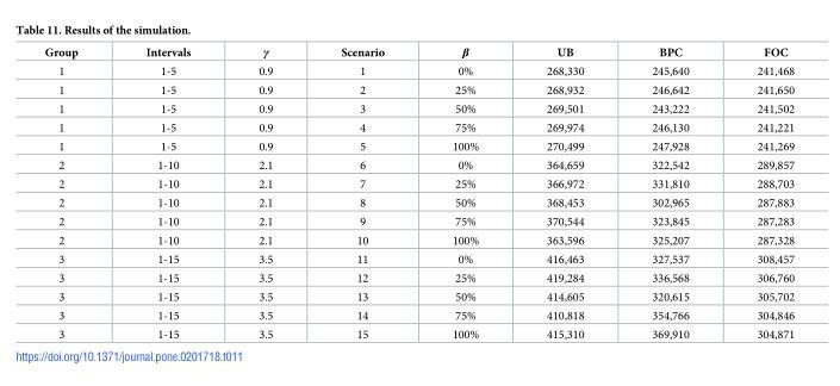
<table><thead><tr><td>Group</td><td>Intervals</td><td>γ</td><td>Scenario</td><td>β</td><td>UB</td><td>BPC</td><td>FOC</td></tr></thead><tbody><tr><td>1</td><td>1-5</td><td>0.9</td><td>1</td><td>0%</td><td>268,330</td><td>245,640</td><td>241,468</td></tr><tr><td>1</td><td>1-5</td><td>0.9</td><td>2</td><td>25%</td><td>268,932</td><td>246,642</td><td>241,650</td></tr><tr><td>1</td><td>1-5</td><td>0.9</td><td>3</td><td>50%</td><td>269,501</td><td>243,222</td><td>241,502</td></tr><tr><td>1</td><td>1-5</td><td>0.9</td><td>4</td><td>75%</td><td>269,974</td><td>246,130</td><td>241,221</td></tr><tr><td>1</td><td>1-5</td><td>0.9</td><td>5</td><td>100%</td><td>270,499</td><td>247,928</td><td>241,269</td></tr><tr><td>2</td><td>1-10</td><td>2.1</td><td>6</td><td>0%</td><td>364,659</td><td>322,542</td><td>289,857</td></tr><tr><td>2</td><td>1-10</td><td>2.1</td><td>7</td><td>25%</td><td>366,972</td><td>331,810</td><td>288,703</td></tr><tr><td>2</td><td>1-10</td><td>2.1</td><td>8</td><td>50%</td><td>368,453</td><td>302,965</td><td>287,883</td></tr><tr><td>2</td><td>1-10</td><td>2.1</td><td>9</td><td>75%</td><td>370,544</td><td>323,845</td><td>287,283</td></tr><tr><td>2</td><td>1-10</td><td>2.1</td><td>10</td><td>100%</td><td>363,596</td><td>325,207</td><td>287,328</td></tr><tr><td>3</td><td>1-15</td><td>3.5</td><td>11</td><td>0%</td><td>416,463</td><td>327,537</td><td>308,457</td></tr><tr><td>3</td><td>1-15</td><td>3.5</td><td>12</td><td>25%</td><td>419,284</td><td>336,568</td><td>306,760</td></tr><tr><td>3</td><td>1-15</td><td>3.5</td><td>13</td><td>50%</td><td>414,605</td><td>320,615</td><td>305,702</td></tr><tr><td>3</td><td>1-15</td><td>3.5</td><td>14</td><td>75%</td><td>410,818</td><td>354,766</td><td>304,846</td></tr><tr><td>3</td><td>1-15</td><td>3.5</td><td>15</td><td>100%</td><td>415,310</td><td>369,910</td><td>304,871</td></tr></tbody></table>